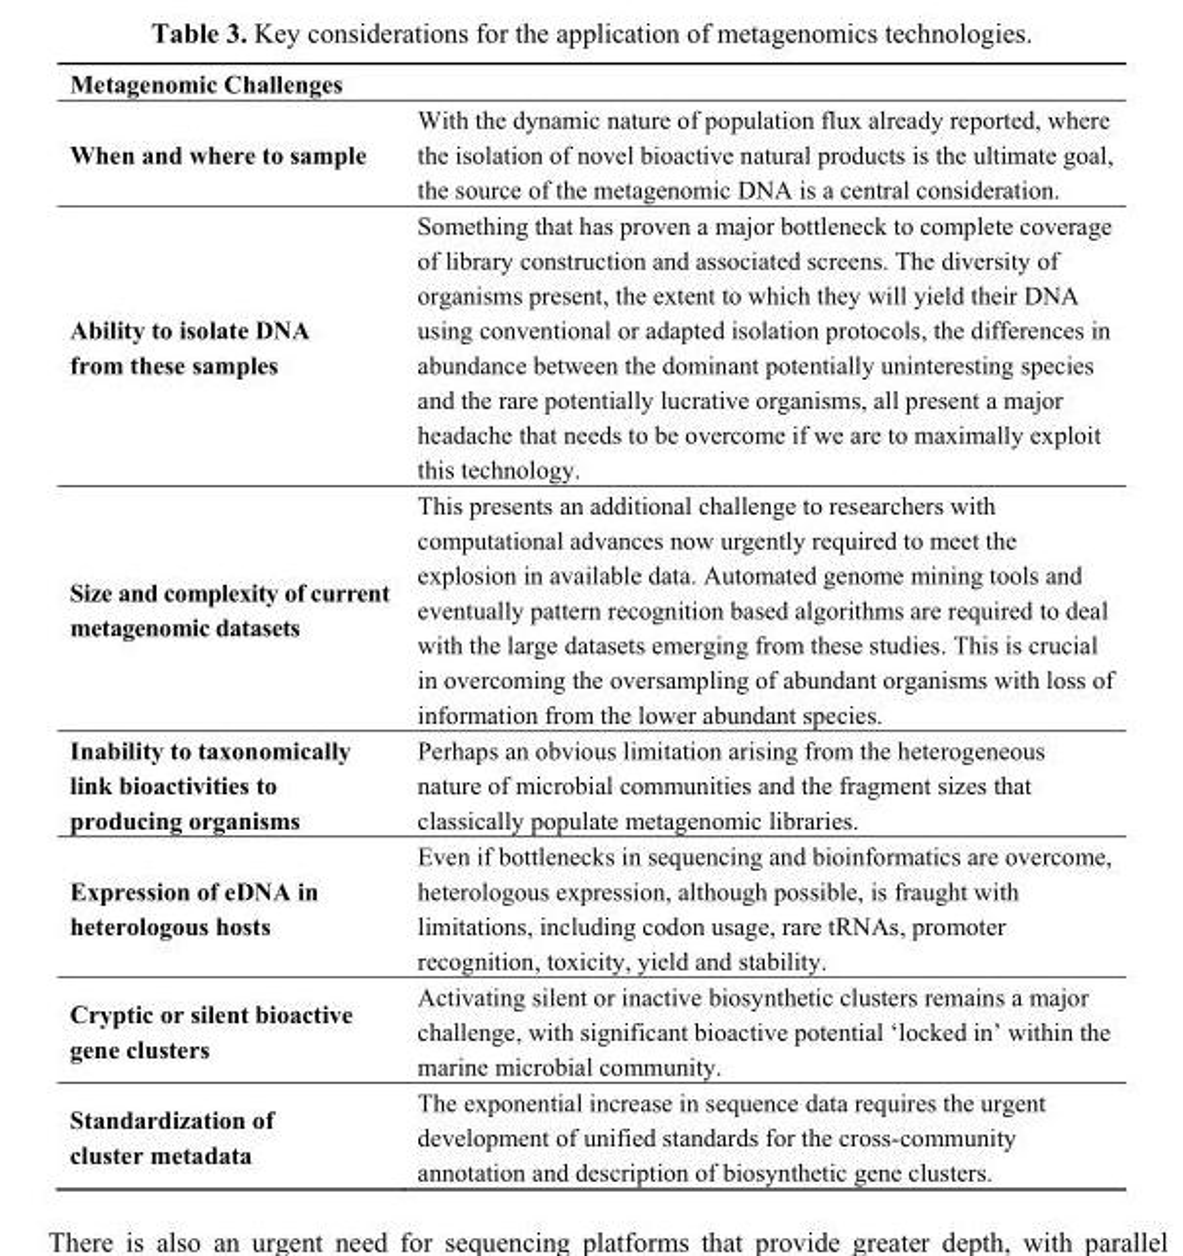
<table><thead><tr><td>Metagenomic Challenges</td><td></td></tr></thead><tbody><tr><td>When and where to sample</td><td>With the dynamic nature of population flux already reported, where the isolation of novel bioactive natural products is the ultimate goal, the source of the metagenomic DNA is a central consideration.</td></tr><tr><td>Ability to isolate DNA from these samples</td><td>Something that has proven a major bottleneck to complete coverage of library construction and associated screens. The diversity of organisms present, the extent to which they will yield their DNA using conventional or adapted isolation protocols, the differences in abundance between the dominant potentially uninteresting species and the rare potentially lucrative organisms, all present a major headache that needs to be overcome if we are to maximally exploit this technology.</td></tr><tr><td>Size and complexity of current metagenomic datasets</td><td>This presents an additional challenge to researchers with computational advances now urgently required to meet the explosion in available data. Automated genome mining tools and eventually pattern recognition based algorithms are required to deal with the large datasets emerging from these studies. This is crucial in overcoming the oversampling of abundant organisms with loss of information from the lower abundant species.</td></tr><tr><td>Inability to taxonomically link bioactivities to producing organisms</td><td>Perhaps an obvious limitation arising from the heterogeneous nature of microbial communities and the fragment sizes that classically populate metagenomic libraries.</td></tr><tr><td>Expression of eDNA in heterologous hosts</td><td>Even if bottlenecks in sequencing and bioinformatics are overcome, heterologous expression, although possible, is fraught with limitations, including codon usage, rare tRNAs, promoter recognition, toxicity, yield and stability.</td></tr><tr><td>Cryptic or silent bioactive gene clusters</td><td>Activating silent or inactive biosynthetic clusters remains a major challenge, with significant bioactive potential ‘locked in’ within the marine microbial community.</td></tr><tr><td>Standardization of cluster metadata</td><td>The exponential increase in sequence data requires the urgent development of unified standards for the cross-community annotation and description of biosynthetic gene clusters.</td></tr></tbody></table>